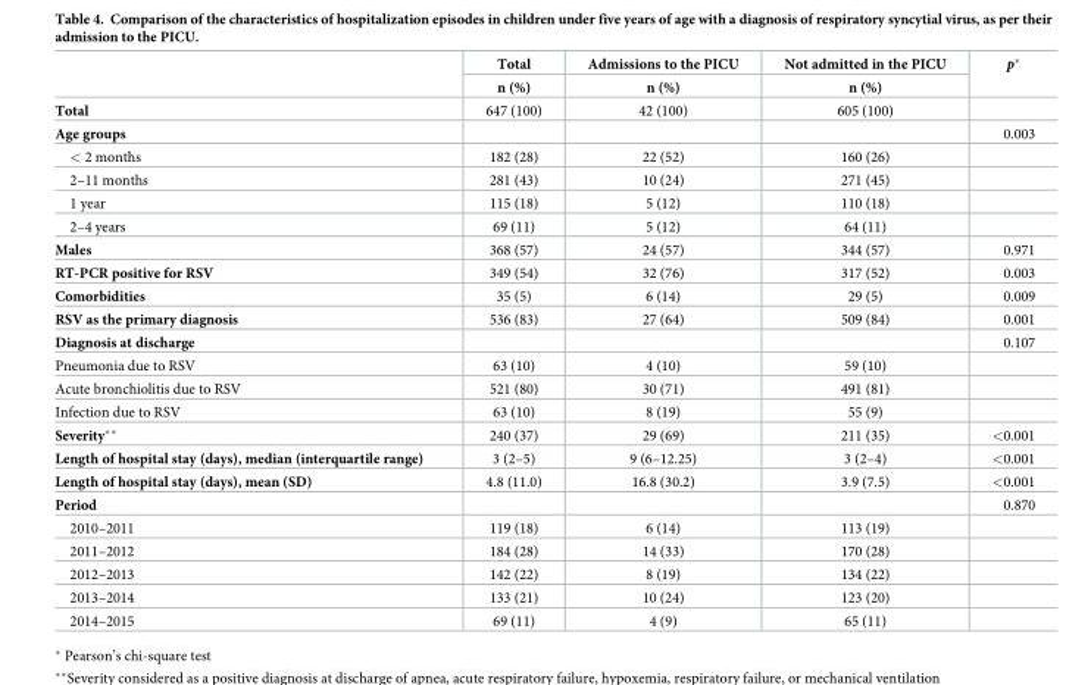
<table><thead><tr><td rowspan="2"></td><td rowspan="2">Total n (%)</td><td rowspan="2">Admissions to the PICU n (%)</td><td rowspan="2">Not admitted in the PICU n (%)</td><td rowspan="2">p*</td></tr><tr></tr></thead><tbody><tr><td>Total</td><td>647 (100)</td><td>42 (100)</td><td>605 (100)</td><td></td></tr><tr><td>Age groups</td><td></td><td></td><td></td><td>0.003</td></tr><tr><td>&lt; 2 months</td><td>182 (28)</td><td>22 (52)</td><td>160 (26)</td><td></td></tr><tr><td>2–11 months</td><td>281 (43)</td><td>10 (24)</td><td>271 (45)</td><td></td></tr><tr><td>1 year</td><td>115 (18)</td><td>5 (12)</td><td>110 (18)</td><td></td></tr><tr><td>2–4 years</td><td>69 (11)</td><td>5 (12)</td><td>64 (11)</td><td></td></tr><tr><td>Males</td><td>368 (57)</td><td>24 (57)</td><td>344 (57)</td><td>0.971</td></tr><tr><td>RT-PCR positive for RSV</td><td>349 (54)</td><td>32 (76)</td><td>317 (52)</td><td>0.003</td></tr><tr><td>Comorbidities</td><td>35 (5)</td><td>6 (14)</td><td>29 (5)</td><td>0.009</td></tr><tr><td>RSV as the primary diagnosis</td><td>536 (83)</td><td>27 (64)</td><td>509 (84)</td><td>0.001</td></tr><tr><td>Diagnosis at discharge</td><td></td><td></td><td></td><td>0.107</td></tr><tr><td>Pneumonia due to RSV</td><td>63 (10)</td><td>4 (10)</td><td>59 (10)</td><td></td></tr><tr><td>Acute bronchiolitis due to RSV</td><td>521 (80)</td><td>30 (71)</td><td>491 (81)</td><td></td></tr><tr><td>Infection due to RSV</td><td>63 (10)</td><td>8 (19)</td><td>55 (9)</td><td></td></tr><tr><td>Severity**</td><td>240 (37)</td><td>29 (69)</td><td>211 (35)</td><td>&lt;0.001</td></tr><tr><td>Length of hospital stay (days), median (interquartile range)</td><td>3 (2–5)</td><td>9 (6–12.25)</td><td>3 (2–4)</td><td>&lt;0.001</td></tr><tr><td>Length of hospital stay (days), mean (SD)</td><td>4.8 (11.0)</td><td>16.8 (30.2)</td><td>3.9 (7.5)</td><td>&lt;0.001</td></tr><tr><td>Period</td><td></td><td></td><td></td><td>0.870</td></tr><tr><td>2010–2011</td><td>119 (18)</td><td>6 (14)</td><td>113 (19)</td><td></td></tr><tr><td>2011–2012</td><td>184 (28)</td><td>14 (33)</td><td>170 (28)</td><td></td></tr><tr><td>2012–2013</td><td>142 (22)</td><td>8 (19)</td><td>134 (22)</td><td></td></tr><tr><td>2013–2014</td><td>133 (21)</td><td>10 (24)</td><td>123 (20)</td><td></td></tr><tr><td>2014–2015</td><td>69 (11)</td><td>4 (9)</td><td>65 (11)</td><td></td></tr></tbody></table>